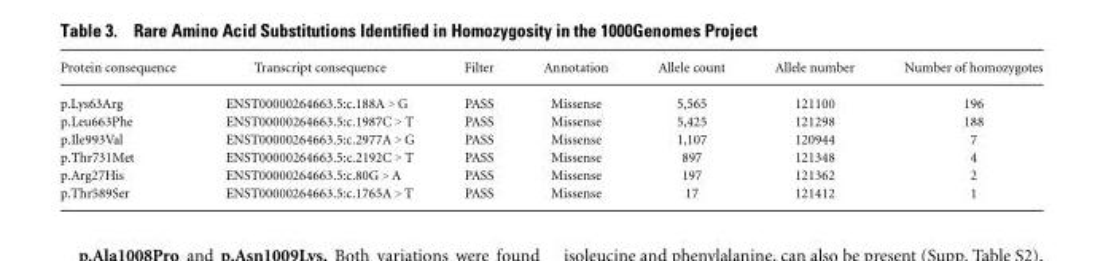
<table><thead><tr><td>Protein consequence</td><td>Transcript consequence</td><td>Filter</td><td>Annotation</td><td>Allele count</td><td>Allele number</td><td>Number of homozygotes</td></tr></thead><tbody><tr><td>p.Lys63Arg</td><td>ENST00000264663.5:c.188A &gt; G</td><td>PASS</td><td>Missense</td><td>5,565</td><td>121100</td><td>196</td></tr><tr><td>p.Leu663Phe</td><td>ENST00000264663.5:c.1987C &gt; T</td><td>PASS</td><td>Missense</td><td>5,425</td><td>121298</td><td>188</td></tr><tr><td>p.Ile993Val</td><td>ENST00000264663.5:c.2977A &gt; G</td><td>PASS</td><td>Missense</td><td>1,107</td><td>120944</td><td>7</td></tr><tr><td>p.Thr731Met</td><td>ENST00000264663.5:c.2192C &gt; T</td><td>PASS</td><td>Missense</td><td>897</td><td>121348</td><td>4</td></tr><tr><td>p.Arg27His</td><td>ENST00000264663.5:c.80G &gt; A</td><td>PASS</td><td>Missense</td><td>197</td><td>121362</td><td>2</td></tr><tr><td>p.Thr589Ser</td><td>ENST00000264663.5:c.1765A &gt; T</td><td>PASS</td><td>Missense</td><td>17</td><td>121412</td><td>1</td></tr></tbody></table>